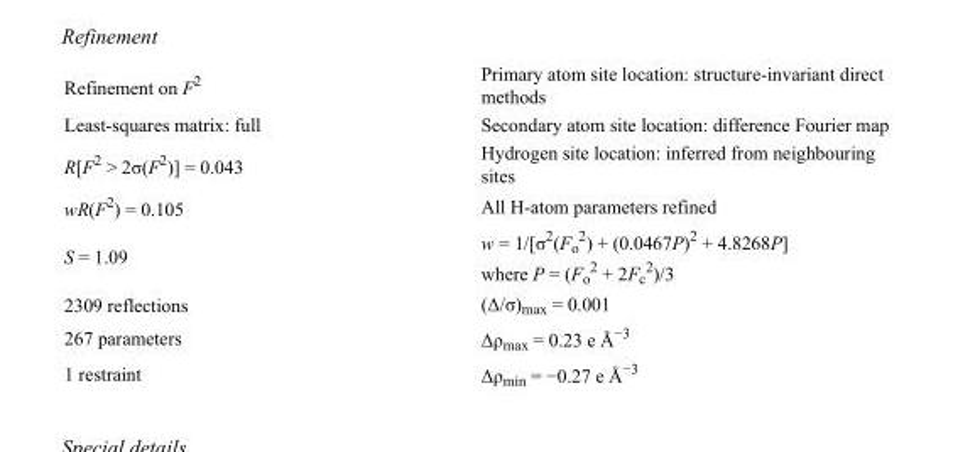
<table><tbody><tr><td>Refinement on F<sup>2</sup></td><td>Primary atom site location: structure-invariant direct methods</td></tr><tr><td>Least-squares matrix: full</td><td>Secondary atom site location: difference Fourier map</td></tr><tr><td>R[F<sup>2</sup> &gt; 2σ(F<sup>2</sup>)] = 0.043</td><td>Hydrogen site location: inferred from neighbouring sites</td></tr><tr><td>wR(F<sup>2</sup>) = 0.105</td><td>All H-atom parameters refined</td></tr><tr><td>S = 1.09</td><td>w = 1/[σ<sup>2</sup>(F<sub>o</sub> <sup>2</sup>) + (0.0467P)<sup>2</sup> + 4.8268P] where P = (F<sub>o</sub> <sup>2</sup> + 2F<sub>c</sub> <sup>2</sup>)/3</td></tr><tr><td>2309 reflections</td><td>(Δ/σ)<sub>max</sub> = 0.001</td></tr><tr><td>267 parameters</td><td>Δρ<sub>max</sub> = 0.23 e Å<sup>−3</sup></td></tr><tr><td>1 restraint</td><td>Δρ<sub>min</sub> = −0.27 e Å<sup>−3</sup></td></tr></tbody></table>